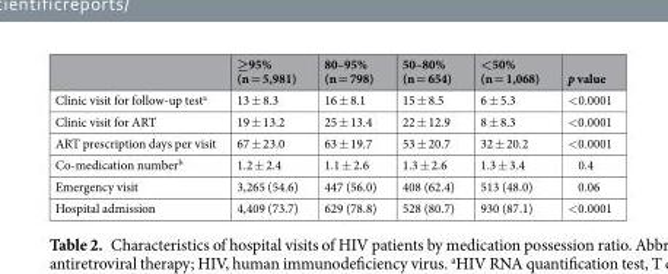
<table><thead><tr><td></td><td>≥95% (n = 5,981)</td><td>80–95% (n = 798)</td><td>50–80% (n = 654)</td><td>&lt;50% (n = 1,068)</td><td>p value</td></tr></thead><tbody><tr><td>Clinic visit for follow-up test<sup>a</sup></td><td>13 ± 8.3</td><td>16 ± 8.1</td><td>15 ± 8.5</td><td>6 ± 5.3</td><td>&lt;0.0001</td></tr><tr><td>Clinic visit for ART</td><td>19 ± 13.2</td><td>25 ± 13.4</td><td>22 ± 12.9</td><td>8 ± 8.3</td><td>&lt;0.0001</td></tr><tr><td>ART prescription days per visit</td><td>67 ± 23.0</td><td>63 ± 19.7</td><td>53 ± 20.7</td><td>32 ± 20.2</td><td>&lt;0.0001</td></tr><tr><td>Co-medication number<sup>b</sup></td><td>1.2 ± 2.4</td><td>1.1 ± 2.6</td><td>1.3 ± 2.6</td><td>1.3 ± 3.4</td><td>0.4</td></tr><tr><td>Emergency visit</td><td>3,265 (54.6)</td><td>447 (56.0)</td><td>408 (62.4)</td><td>513 (48.0)</td><td>0.06</td></tr><tr><td>Hospital admission</td><td>4,409 (73.7)</td><td>629 (78.8)</td><td>528 (80.7)</td><td>930 (87.1)</td><td>&lt;0.0001</td></tr></tbody></table>